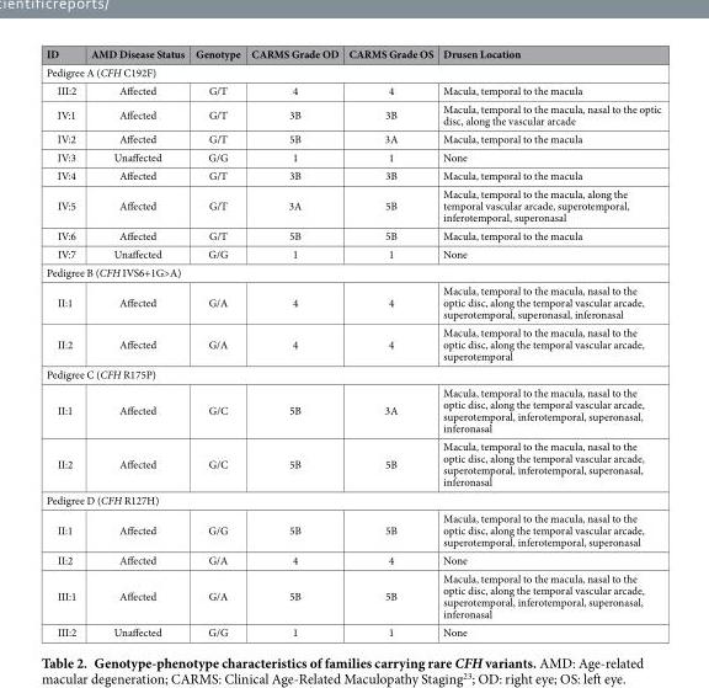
<table><thead><tr><td>ID</td><td>AMD Disease Status</td><td>Genotype</td><td>CARMS Grade OD</td><td>CARMS Grade OS</td><td>Drusen Location</td></tr></thead><tbody><tr><td colspan="6">Pedigree A (CFH C192F)</td></tr><tr><td>III:2</td><td>Affected</td><td>G/T</td><td>4</td><td>4</td><td>Macula, temporal to the macula</td></tr><tr><td>IV:1</td><td>Affected</td><td>G/T</td><td>3B</td><td>3B</td><td>Macula, temporal to the macula, nasal to the optic disc, along the vascular arcade</td></tr><tr><td>IV:2</td><td>Affected</td><td>G/T</td><td>5B</td><td>3A</td><td>Macula, temporal to the macula</td></tr><tr><td>IV:3</td><td>Unaffected</td><td>G/G</td><td>1</td><td>1</td><td>None</td></tr><tr><td>IV:4</td><td>Affected</td><td>G/T</td><td>3B</td><td>3B</td><td>Macula, temporal to the macula</td></tr><tr><td>IV:5</td><td>Affected</td><td>G/T</td><td>3A</td><td>5B</td><td>Macula, temporal to the macula, along the temporal vascular arcade, superotemporal, inferotemporal, superonasal</td></tr><tr><td>IV:6</td><td>Affected</td><td>G/T</td><td>5B</td><td>5B</td><td>Macula, temporal to the macula</td></tr><tr><td>IV:7</td><td>Unaffected</td><td>G/G</td><td>1</td><td>1</td><td>None</td></tr><tr><td colspan="6">Pedigree B (CFH IVS6+1G&gt;A)</td></tr><tr><td>II:1</td><td>Affected</td><td>G/A</td><td>4</td><td>4</td><td>Macula, temporal to the macula, nasal to the optic disc, along the temporal vascular arcade, superotemporal, superonasal, inferonasal</td></tr><tr><td>II:2</td><td>Affected</td><td>G/A</td><td>4</td><td>4</td><td>Macula, temporal to the macula, nasal to the optic disc, along the temporal vascular arcade, superotemporal</td></tr><tr><td colspan="6">Pedigree C (CFH R175P)</td></tr><tr><td>II:1</td><td>Affected</td><td>G/C</td><td>5B</td><td>3A</td><td>Macula, temporal to the macula, nasal to the optic disc, along the temporal vascular arcade, superotemporal, inferotemporal, superonasal, inferonasal</td></tr><tr><td>II:2</td><td>Affected</td><td>G/C</td><td>5B</td><td>5B</td><td>Macula, temporal to the macula, nasal to the optic disc, along the temporal vascular arcade, superotemporal, inferotemporal, superonasal, inferonasal</td></tr><tr><td colspan="6">Pedigree D (CFH R127H)</td></tr><tr><td>II:1</td><td>Affected</td><td>G/G</td><td>5B</td><td>5B</td><td>Macula, temporal to the macula, nasal to the optic disc, along the temporal vascular arcade, superotemporal, inferotemporal, superonasal</td></tr><tr><td>II:2</td><td>Affected</td><td>G/A</td><td>4</td><td>4</td><td>None</td></tr><tr><td>III:1</td><td>Affected</td><td>G/A</td><td>5B</td><td>5B</td><td>Macula, temporal to the macula, nasal to the optic disc, along the temporal vascular arcade, superotemporal, inferotemporal, superonasal, inferonasal</td></tr><tr><td>III:2</td><td>Unaffected</td><td>G/G</td><td>1</td><td>1</td><td>None</td></tr></tbody></table>